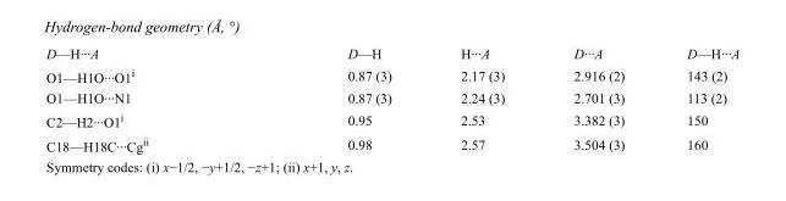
<table><tbody><tr><td>D—H···A</td><td>D—H</td><td>H···A</td><td>D···A</td><td>D—H···A</td></tr><tr><td>O1—H1O···O1<sup>i</sup></td><td>0.87 (3)</td><td>2.17 (3)</td><td>2.916 (2)</td><td>143 (2)</td></tr><tr><td>O1—H1O···N1</td><td>0.87 (3)</td><td>2.24 (3)</td><td>2.701 (3)</td><td>113 (2)</td></tr><tr><td>C2—H2···O1<sup>i</sup></td><td>0.95</td><td>2.53</td><td>3.382 (3)</td><td>150</td></tr><tr><td>C18—H18C···Cg<sup>ii</sup></td><td>0.98</td><td>2.57</td><td>3.504 (3)</td><td>160</td></tr></tbody></table>